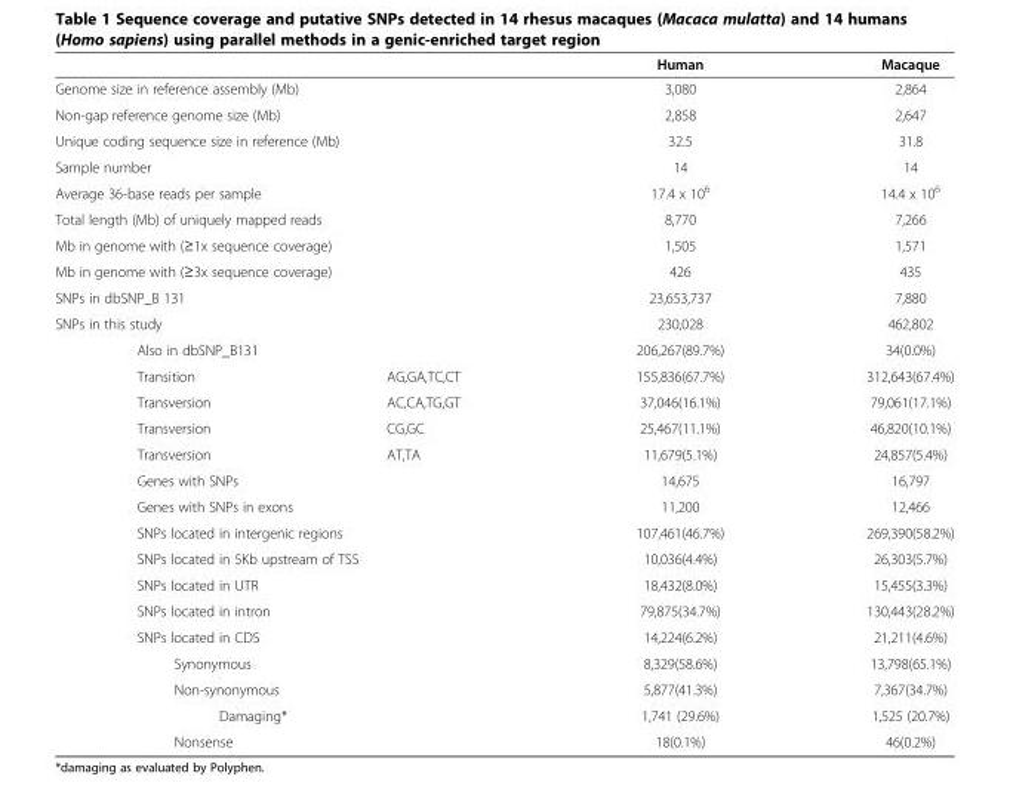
<table><thead><tr><td></td><td></td><td>Human</td><td>Macaque</td></tr></thead><tbody><tr><td colspan="2">Genome size in reference assembly (Mb)</td><td>3,080</td><td>2,864</td></tr><tr><td colspan="2">Non-gap reference genome size (Mb)</td><td>2,858</td><td>2,647</td></tr><tr><td colspan="2">Unique coding sequence size in reference (Mb)</td><td>32.5</td><td>31.8</td></tr><tr><td colspan="2">Sample number</td><td>14</td><td>14</td></tr><tr><td colspan="2">Average 36-base reads per sample</td><td>17.4 x 10<sup>6</sup></td><td>14.4 x 10<sup>6</sup></td></tr><tr><td colspan="2">Total length (Mb) of uniquely mapped reads</td><td>8,770</td><td>7,266</td></tr><tr><td colspan="2">Mb in genome with (≥1x sequence coverage)</td><td>1,505</td><td>1,571</td></tr><tr><td colspan="2">Mb in genome with (≥3x sequence coverage)</td><td>426</td><td>435</td></tr><tr><td colspan="2">SNPs in dbSNP_B 131</td><td>23,653,737</td><td>7,880</td></tr><tr><td colspan="2">SNPs in this study</td><td>230,028</td><td>462,802</td></tr><tr><td colspan="2">Also in dbSNP_B131</td><td>206,267(89.7%)</td><td>34(0.0%)</td></tr><tr><td>Transition</td><td>AG,GA,TC,CT</td><td>155,836(67.7%)</td><td>312,643(67.4%)</td></tr><tr><td>Transversion</td><td>AC,CA,TG,GT</td><td>37,046(16.1%)</td><td>79,061(17.1%)</td></tr><tr><td>Transversion</td><td>CG,GC</td><td>25,467(11.1%)</td><td>46,820(10.1%)</td></tr><tr><td>Transversion</td><td>AT,TA</td><td>11,679(5.1%)</td><td>24,857(5.4%)</td></tr><tr><td colspan="2">Genes with SNPs</td><td>14,675</td><td>16,797</td></tr><tr><td colspan="2">Genes with SNPs in exons</td><td>11,200</td><td>12,466</td></tr><tr><td colspan="2">SNPs located in intergenic regions</td><td>107,461(46.7%)</td><td>269,390(58.2%)</td></tr><tr><td colspan="2">SNPs located in 5Kb upstream of TSS</td><td>10,036(4.4%)</td><td>26,303(5.7%)</td></tr><tr><td colspan="2">SNPs located in UTR</td><td>18,432(8.0%)</td><td>15,455(3.3%)</td></tr><tr><td colspan="2">SNPs located in intron</td><td>79,875(34.7%)</td><td>130,443(28.2%)</td></tr><tr><td colspan="2">SNPs located in CDS</td><td>14,224(6.2%)</td><td>21,211(4.6%)</td></tr><tr><td colspan="2">Synonymous</td><td>8,329(58.6%)</td><td>13,798(65.1%)</td></tr><tr><td colspan="2">Non-synonymous</td><td>5,877(41.3%)</td><td>7,367(34.7%)</td></tr><tr><td colspan="2">Damaging*</td><td>1,741 (29.6%)</td><td>1,525 (20.7%)</td></tr><tr><td colspan="2">Nonsense</td><td>18(0.1%)</td><td>46(0.2%)</td></tr></tbody></table>